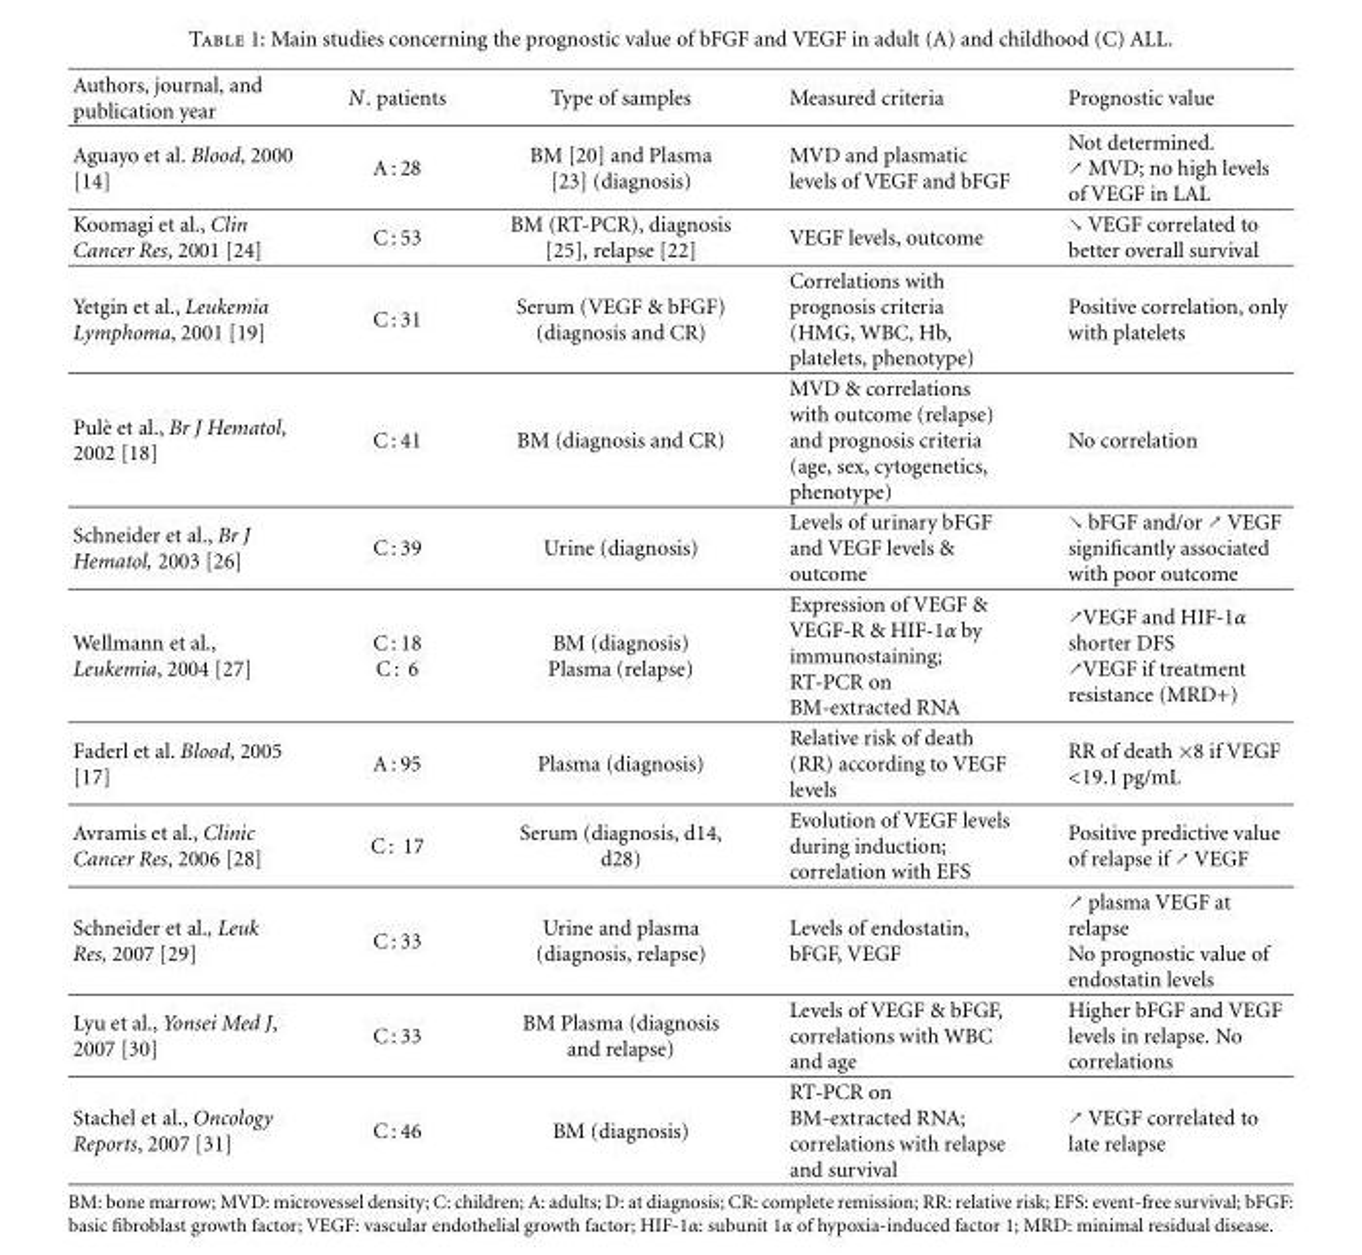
<table><thead><tr><td>Authors, journal, and publication year</td><td>N. patients</td><td>Type of samples</td><td>Measured criteria</td><td>Prognostic value</td></tr></thead><tbody><tr><td>Aguayo et al. Blood, 2000 [14]</td><td>A : 28</td><td>BM [20] and Plasma [23] (diagnosis)</td><td>MVD and plasmatic levels of VEGF and bFGF</td><td>Not determined. ↗ MVD; no high levels of VEGF in LAL</td></tr><tr><td>Koomagi et al., Clin Cancer Res, 2001 [24]</td><td>C : 53</td><td>BM (RT-PCR), diagnosis [25], relapse [22]</td><td>VEGF levels, outcome</td><td>↘ VEGF correlated to better overall survival</td></tr><tr><td>Yetgin et al., Leukemia Lymphoma, 2001 [19]</td><td>C : 31</td><td>Serum (VEGF &amp; bFGF) (diagnosis and CR)</td><td>Correlations with prognosis criteria (HMG, WBC, Hb, platelets, phenotype)</td><td>Positive correlation, only with platelets</td></tr><tr><td>Pul`e et al., Br J Hematol, 2002 [18]</td><td>C : 41</td><td>BM (diagnosis and CR)</td><td>MVD &amp; correlations with outcome (relapse) and prognosis criteria (age, sex, cytogenetics, phenotype)</td><td>No correlation</td></tr><tr><td>Schneider et al., Br J Hematol, 2003 [26]</td><td>C : 39</td><td>Urine (diagnosis)</td><td>Levels of urinary bFGF and VEGF levels &amp; outcome</td><td>↘ bFGF and/or ↗ VEGF significantly associated with poor outcome</td></tr><tr><td>Wellmann et al., Leukemia, 2004 [27]</td><td>C : 18 C : 6</td><td>BM (diagnosis) Plasma (relapse)</td><td>Expression of VEGF &amp; VEGF-R &amp; HIF-1α by immunostaining; RT-PCR on BM-extracted RNA</td><td>↗VEGF and HIF-1α shorter DFS ↗VEGF if treatment resistance (MRD+)</td></tr><tr><td>Faderl et al. Blood, 2005 [17]</td><td>A : 95</td><td>Plasma (diagnosis)</td><td>Relative risk of death (RR) according to VEGF levels</td><td>RR of death ×8 if VEGF &lt;19.1 pg/mL</td></tr><tr><td>Avramis et al., Clinic Cancer Res, 2006 [28]</td><td>C : 17</td><td>Serum (diagnosis, d14, d28)</td><td>Evolution of VEGF levels during induction; correlation with EFS</td><td>Positive predictive value of relapse if ↗ VEGF</td></tr><tr><td>Schneider et al., Leuk Res, 2007 [29]</td><td>C : 33</td><td>Urine and plasma (diagnosis, relapse)</td><td>Levels of endostatin, bFGF, VEGF</td><td>↗ plasma VEGF at relapse No prognostic value of endostatin levels</td></tr><tr><td>Lyu et al., Yonsei Med J, 2007 [30]</td><td>C : 33</td><td>BM Plasma (diagnosis and relapse)</td><td>Levels of VEGF &amp; bFGF, correlations with WBC and age</td><td>Higher bFGF and VEGF levels in relapse. No correlations</td></tr><tr><td>Stachel et al., Oncology Reports, 2007 [31]</td><td>C : 46</td><td>BM (diagnosis)</td><td>RT-PCR on BM-extracted RNA; correlations with relapse and survival</td><td>↗ VEGF correlated to late relapse</td></tr></tbody></table>